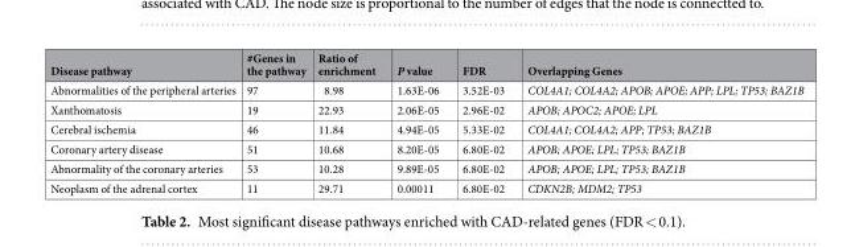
<table><thead><tr><td>Disease pathway</td><td>#Genes in the pathway</td><td>Ratio of enrichment</td><td>P value</td><td>FDR</td><td>Overlapping Genes</td></tr></thead><tbody><tr><td>Abnormalities of the peripheral arteries</td><td>97</td><td>8.98</td><td>1.63E-06</td><td>3.52E-03</td><td>COL4A1; COL4A2; APOB; APOE; APP; LPL; TP53; BAZ1B</td></tr><tr><td>Xanthomatosis</td><td>19</td><td>22.93</td><td>2.06E-05</td><td>2.96E-02</td><td>APOB; APOC2; APOE; LPL</td></tr><tr><td>Cerebral ischemia</td><td>46</td><td>11.84</td><td>4.94E-05</td><td>5.33E-02</td><td>COL4A1; COL4A2; APP; TP53; BAZ1B</td></tr><tr><td>Coronary artery disease</td><td>51</td><td>10.68</td><td>8.20E-05</td><td>6.80E-02</td><td>APOB; APOE; LPL; TP53; BAZ1B</td></tr><tr><td>Abnormality of the coronary arteries</td><td>53</td><td>10.28</td><td>9.89E-05</td><td>6.80E-02</td><td>APOB; APOE; LPL; TP53; BAZ1B</td></tr><tr><td>Neoplasm of the adrenal cortex</td><td>11</td><td>29.71</td><td>0.00011</td><td>6.80E-02</td><td>CDKN2B; MDM2; TP53</td></tr></tbody></table>